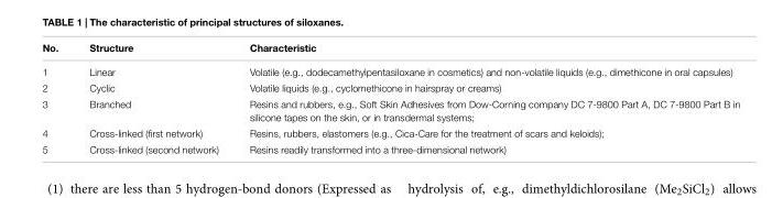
<table><thead><tr><td>No.</td><td>Structure</td><td>Characteristic</td></tr></thead><tbody><tr><td>1</td><td>Linear</td><td>Volatile (e.g., dodecamethylpentasiloxane in cosmetics) and non-volatile liquids (e.g., dimethicone in oral capsules)</td></tr><tr><td>2</td><td>Cyclic</td><td>Volatile liquids (e.g., cyclomethicone in hairspray or creams)</td></tr><tr><td>3</td><td>Branched</td><td>Resins and rubbers, e.g., Soft Skin Adhesives from Dow-Corning company DC 7-9800 Part A, DC 7-9800 Part B in silicone tapes on the skin, or in transdermal systems;</td></tr><tr><td>4</td><td>Cross-linked (first network)</td><td>Resins, rubbers, elastomers (e.g., Cica-Care for the treatment of scars and keloids);</td></tr><tr><td>5</td><td>Cross-linked (second network)</td><td>Resins readily transformed into a three-dimensional network)</td></tr></tbody></table>